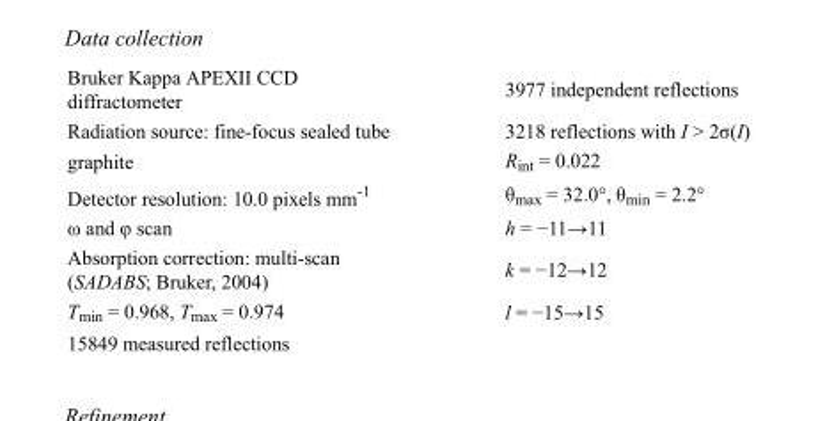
<table><tbody><tr><td>Bruker Kappa APEXII CCD diffractometer</td><td>3977 independent reflections</td></tr><tr><td>Radiation source: fine-focus sealed tube</td><td>3218 reflections with I &gt; 2σ(I)</td></tr><tr><td>graphite</td><td>R<sub>int</sub> = 0.022</td></tr><tr><td>Detector resolution: 10.0 pixels mm<sup>-1</sup></td><td>θ<sub>max</sub> = 32.0°, θ<sub>min</sub> = 2.2°</td></tr><tr><td>ω and φ scan</td><td>h = −11→11</td></tr><tr><td>Absorption correction: multi-scan (SADABS; Bruker, 2004)</td><td>k = −12→12</td></tr><tr><td>T<sub>min</sub> = 0.968, T<sub>max</sub> = 0.974</td><td>l = −15→15</td></tr><tr><td>15849 measured reflections</td><td></td></tr></tbody></table>